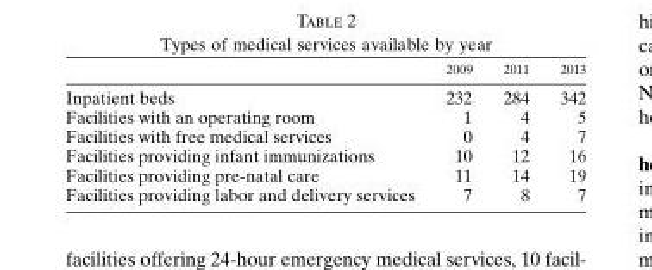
<table><thead><tr><td></td><td>2009</td><td>2011</td><td>2013</td></tr></thead><tbody><tr><td>Inpatient beds</td><td>232</td><td>284</td><td>342</td></tr><tr><td>Facilities with an operating room</td><td>1</td><td>4</td><td>5</td></tr><tr><td>Facilities with free medical services</td><td>0</td><td>4</td><td>7</td></tr><tr><td>Facilities providing infant immunizations</td><td>10</td><td>12</td><td>16</td></tr><tr><td>Facilities providing pre-natal care</td><td>11</td><td>14</td><td>19</td></tr><tr><td>Facilities providing labor and delivery services</td><td>7</td><td>8</td><td>7</td></tr></tbody></table>